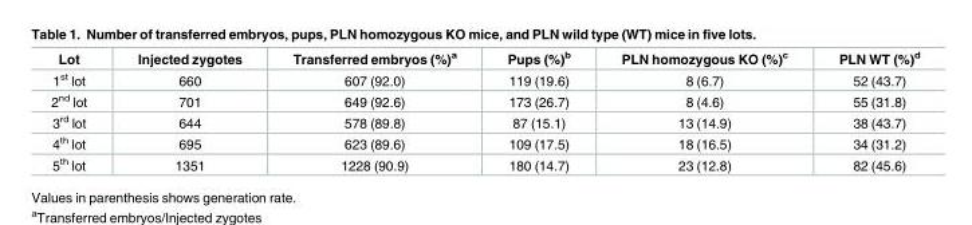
<table><thead><tr><td>Lot</td><td>Injected zygotes</td><td>Transferred embryos (%)<sup>a</sup></td><td>Pups (%)<sup>b</sup></td><td>PLN homozygous KO (%)<sup>c</sup></td><td>PLN WT (%)<sup>d</sup></td></tr></thead><tbody><tr><td>1<sup>st</sup> lot</td><td>660</td><td>607 (92.0)</td><td>119 (19.6)</td><td>8 (6.7)</td><td>52 (43.7)</td></tr><tr><td>2<sup>nd</sup> lot</td><td>701</td><td>649 (92.6)</td><td>173 (26.7)</td><td>8 (4.6)</td><td>55 (31.8)</td></tr><tr><td>3<sup>rd</sup> lot</td><td>644</td><td>578 (89.8)</td><td>87 (15.1)</td><td>13 (14.9)</td><td>38 (43.7)</td></tr><tr><td>4<sup>th</sup> lot</td><td>695</td><td>623 (89.6)</td><td>109 (17.5)</td><td>18 (16.5)</td><td>34 (31.2)</td></tr><tr><td>5<sup>th</sup> lot</td><td>1351</td><td>1228 (90.9)</td><td>180 (14.7)</td><td>23 (12.8)</td><td>82 (45.6)</td></tr></tbody></table>